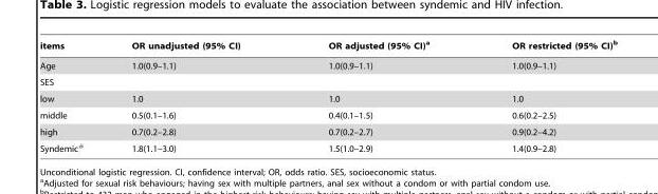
<table><thead><tr><td>items</td><td>OR unadjusted (95% CI)</td><td>OR adjusted (95% CI)<sup>a</sup></td><td>OR restricted (95% CI)<sup>b</sup></td></tr></thead><tbody><tr><td>Age</td><td>1.0(0.9–1.1)</td><td>1.0(0.9–1.1)</td><td>1.0(0.9–1.1)</td></tr><tr><td colspan="4">SES</td></tr><tr><td>low</td><td>1.0</td><td>1.0</td><td>1.0</td></tr><tr><td>middle</td><td>0.5(0.1–1.6)</td><td>0.4(0.1–1.5)</td><td>0.6(0.2–2.5)</td></tr><tr><td>high</td><td>0.7(0.2–2.8)</td><td>0.7(0.2–2.7)</td><td>0.9(0.2–4.2)</td></tr><tr><td>Syndemic#</td><td>1.8(1.1–3.0)</td><td>1.5(1.0–2.9)</td><td>1.4(0.9–2.8)</td></tr></tbody></table>